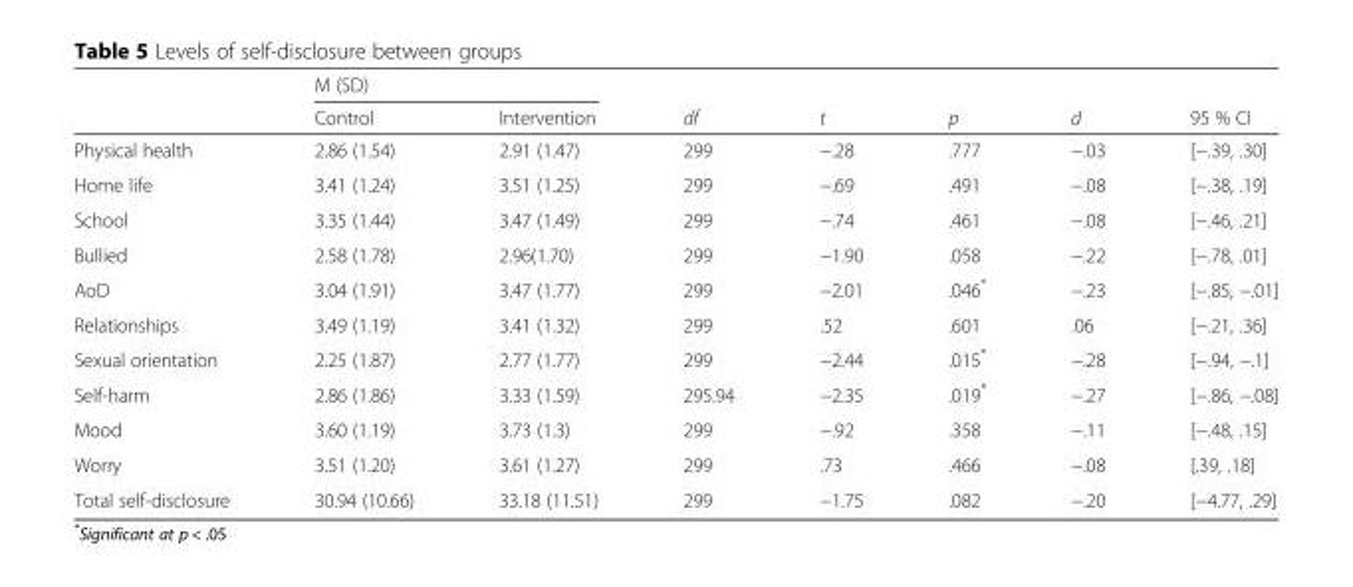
<table><thead><tr><td rowspan="2"></td><td colspan="2">M (SD)</td><td rowspan="2">df</td><td rowspan="2">t</td><td rowspan="2">p</td><td rowspan="2">d</td><td rowspan="2">95 % CI</td></tr><tr><td>Control</td><td>Intervention</td></tr></thead><tbody><tr><td>Physical health</td><td>2.86 (1.54)</td><td>2.91 (1.47)</td><td>299</td><td>−.28</td><td>.777</td><td>−.03</td><td>[−.39, .30]</td></tr><tr><td>Home life</td><td>3.41 (1.24)</td><td>3.51 (1.25)</td><td>299</td><td>−.69</td><td>.491</td><td>−.08</td><td>[−.38, .19]</td></tr><tr><td>School</td><td>3.35 (1.44)</td><td>3.47 (1.49)</td><td>299</td><td>−.74</td><td>.461</td><td>−.08</td><td>[−.46, .21]</td></tr><tr><td>Bullied</td><td>2.58 (1.78)</td><td>2.96(1.70)</td><td>299</td><td>−1.90</td><td>.058</td><td>−.22</td><td>[−.78, .01]</td></tr><tr><td>AoD</td><td>3.04 (1.91)</td><td>3.47 (1.77)</td><td>299</td><td>−2.01</td><td>.046*</td><td>−.23</td><td>[−.85, −.01]</td></tr><tr><td>Relationships</td><td>3.49 (1.19)</td><td>3.41 (1.32)</td><td>299</td><td>.52</td><td>.601</td><td>.06</td><td>[−.21, .36]</td></tr><tr><td>Sexual orientation</td><td>2.25 (1.87)</td><td>2.77 (1.77)</td><td>299</td><td>−2.44</td><td>.015*</td><td>−.28</td><td>[−.94, −.1]</td></tr><tr><td>Self-harm</td><td>2.86 (1.86)</td><td>3.33 (1.59)</td><td>295.94</td><td>−2.35</td><td>.019*</td><td>−.27</td><td>[−.86, −.08]</td></tr><tr><td>Mood</td><td>3.60 (1.19)</td><td>3.73 (1.3)</td><td>299</td><td>−.92</td><td>.358</td><td>−.11</td><td>[−.48, .15]</td></tr><tr><td>Worry</td><td>3.51 (1.20)</td><td>3.61 (1.27)</td><td>299</td><td>.73</td><td>.466</td><td>−.08</td><td>[.39, .18]</td></tr><tr><td>Total self-disclosure</td><td>30.94 (10.66)</td><td>33.18 (11.51)</td><td>299</td><td>−1.75</td><td>.082</td><td>−.20</td><td>[−4.77, .29]</td></tr></tbody></table>